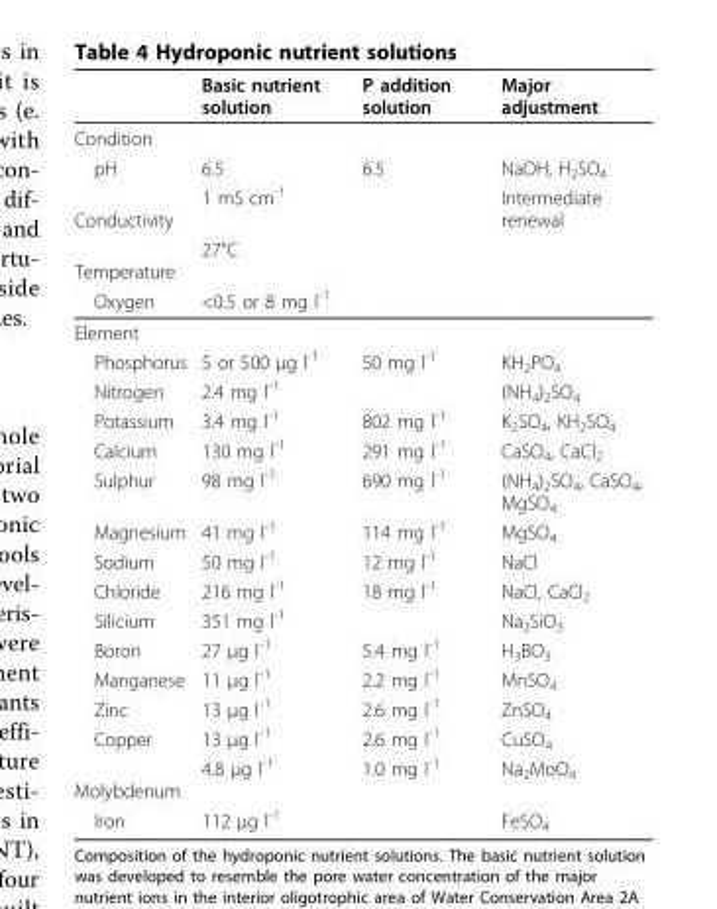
<table><thead><tr><td></td><td>Basic nutrient solution</td><td>P addition solution</td><td>Major adjustment</td></tr></thead><tbody><tr><td colspan="4">Condition</td></tr><tr><td>pH</td><td>6.5</td><td>6.5</td><td>NaOH, H<sub>2</sub>SO<sub>4</sub></td></tr><tr><td>Conductivity</td><td>1 mS cm<sup>-1</sup></td><td></td><td>Intermediate renewal</td></tr><tr><td>Temperature</td><td>27°C</td><td></td><td></td></tr><tr><td>Oxygen</td><td>&lt;0.5 or 8 mg l<sup>-1</sup></td><td></td><td></td></tr><tr><td colspan="4">Element</td></tr><tr><td>Phosphorus</td><td>5 or 500 μg l<sup>-1</sup></td><td>50 mg l<sup>-1</sup></td><td>KH<sub>2</sub>PO<sub>4</sub></td></tr><tr><td>Nitrogen</td><td>2.4 mg l<sup>-1</sup></td><td></td><td>(NH<sub>4</sub>)<sub>2</sub>SO<sub>4</sub></td></tr><tr><td>Potassium</td><td>3.4 mg l<sup>-1</sup></td><td>802 mg l<sup>-1</sup></td><td>K<sub>2</sub>SO<sub>4</sub>, KH<sub>2</sub>SO<sub>4</sub></td></tr><tr><td>Calcium</td><td>130 mg l<sup>-1</sup></td><td>291 mg l<sup>-1</sup></td><td>CaSO<sub>4</sub>, CaCl<sub>2</sub></td></tr><tr><td>Sulphur</td><td>98 mg l<sup>-1</sup></td><td>690 mg l<sup>-1</sup></td><td>(NH<sub>4</sub>)<sub>2</sub>SO<sub>4</sub>, CaSO<sub>4</sub>, MgSO<sub>4</sub></td></tr><tr><td>Magnesium</td><td>41 mg l<sup>-1</sup></td><td>114 mg l<sup>-1</sup></td><td>MgSO<sub>4</sub></td></tr><tr><td>Sodium</td><td>50 mg l<sup>-1</sup></td><td>12 mg l<sup>-1</sup></td><td>NaCl</td></tr><tr><td>Chloride</td><td>216 mg l<sup>-1</sup></td><td>18 mg l<sup>-1</sup></td><td>NaCl, CaCl<sub>2</sub></td></tr><tr><td>Silicium</td><td>351 mg l<sup>-1</sup></td><td></td><td>Na<sub>2</sub>SiO<sub>3</sub></td></tr><tr><td>Boron</td><td>27 μg l<sup>-1</sup></td><td>5.4 mg l<sup>-1</sup></td><td>H<sub>3</sub>BO<sub>3</sub></td></tr><tr><td>Manganese</td><td>11 μg l<sup>-1</sup></td><td>2.2 mg l<sup>-1</sup></td><td>MnSO<sub>4</sub></td></tr><tr><td>Zinc</td><td>13 μg l<sup>-1</sup></td><td>2.6 mg l<sup>-1</sup></td><td>ZnSO<sub>4</sub></td></tr><tr><td>Copper</td><td>13 μg l<sup>-1</sup></td><td>2.6 mg l<sup>-1</sup></td><td>CuSO<sub>4</sub></td></tr><tr><td>Molybdenum</td><td>4.8 μg l<sup>-1</sup></td><td>1.0 mg l<sup>-1</sup></td><td>Na<sub>2</sub>MoO<sub>4</sub></td></tr><tr><td>Iron</td><td>112 μg l<sup>-1</sup></td><td></td><td>FeSO<sub>4</sub></td></tr></tbody></table>